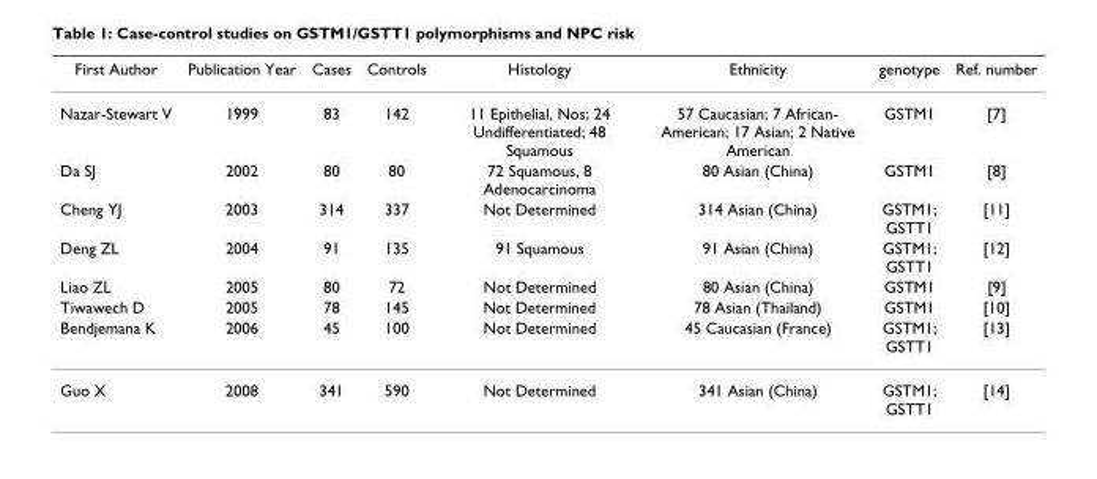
<table><thead><tr><td>First Author</td><td>Publication Year</td><td>Cases</td><td>Controls</td><td>Histology</td><td>Ethnicity</td><td>genotype</td><td>Ref. number</td></tr></thead><tbody><tr><td>Nazar-Stewart V</td><td>1999</td><td>83</td><td>142</td><td>11 Epithelial, Nos; 24 Undifferentiated; 48 Squamous</td><td>57 Caucasian; 7 African- American; 17 Asian; 2 Native American</td><td>GSTM1</td><td>[7]</td></tr><tr><td>Da SJ</td><td>2002</td><td>80</td><td>80</td><td>72 Squamous, 8 Adenocarcinoma</td><td>80 Asian (China)</td><td>GSTM1</td><td>[8]</td></tr><tr><td>Cheng YJ</td><td>2003</td><td>314</td><td>337</td><td>Not Determined</td><td>314 Asian (China)</td><td>GSTM1; GSTT1</td><td>[11]</td></tr><tr><td>Deng ZL</td><td>2004</td><td>91</td><td>135</td><td>91 Squamous</td><td>91 Asian (China)</td><td>GSTM1; GSTT1</td><td>[12]</td></tr><tr><td>Liao ZL</td><td>2005</td><td>80</td><td>72</td><td>Not Determined</td><td>80 Asian (China)</td><td>GSTM1</td><td>[9]</td></tr><tr><td>Tiwawech D</td><td>2005</td><td>78</td><td>145</td><td>Not Determined</td><td>78 Asian (Thailand)</td><td>GSTM1</td><td>[10]</td></tr><tr><td>Bendjemana K</td><td>2006</td><td>45</td><td>100</td><td>Not Determined</td><td>45 Caucasian (France)</td><td>GSTM1; GSTT1</td><td>[13]</td></tr><tr><td>Guo X</td><td>2008</td><td>341</td><td>590</td><td>Not Determined</td><td>341 Asian (China)</td><td>GSTM1; GSTT1</td><td>[14]</td></tr></tbody></table>